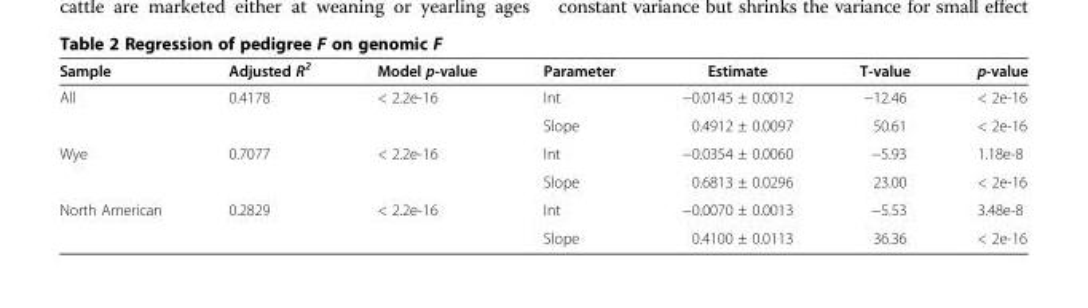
<table><thead><tr><td>Sample</td><td>Adjusted R<sup>2</sup></td><td>Model p-value</td><td>Parameter</td><td>Estimate</td><td>T-value</td><td>p-value</td></tr></thead><tbody><tr><td rowspan="2">All</td><td rowspan="2">0.4178</td><td rowspan="2">&lt; 2.2e-16</td><td>Int</td><td>−0.0145 ± 0.0012</td><td>−12.46</td><td>&lt; 2e-16</td></tr><tr><td>Slope</td><td>0.4912 ± 0.0097</td><td>50.61</td><td>&lt; 2e-16</td></tr><tr><td rowspan="2">Wye</td><td rowspan="2">0.7077</td><td rowspan="2">&lt; 2.2e-16</td><td>Int</td><td>−0.0354 ± 0.0060</td><td>−5.93</td><td>1.18e-8</td></tr><tr><td>Slope</td><td>0.6813 ± 0.0296</td><td>23.00</td><td>&lt; 2e-16</td></tr><tr><td rowspan="2">North American</td><td>0.2829</td><td>&lt; 2.2e-16</td><td>Int</td><td>−0.0070 ± 0.0013</td><td>−5.53</td><td>3.48e-8</td></tr><tr><td></td><td></td><td>Slope</td><td>0.4100 ± 0.0113</td><td>36.36</td><td>&lt; 2e-16</td></tr></tbody></table>